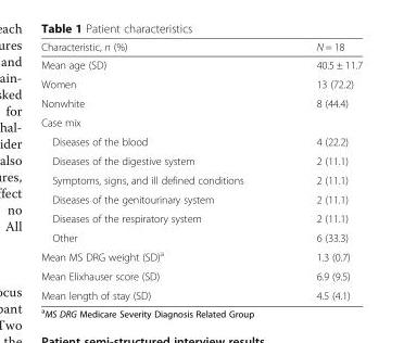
<table><thead><tr><td>Characteristic, n (%)</td><td>N = 18</td></tr></thead><tbody><tr><td>Mean age (SD)</td><td>40.5 ± 11.7</td></tr><tr><td>Women</td><td>13 (72.2)</td></tr><tr><td>Nonwhite</td><td>8 (44.4)</td></tr><tr><td colspan="2">Case mix</td></tr><tr><td>Diseases of the blood</td><td>4 (22.2)</td></tr><tr><td>Diseases of the digestive system</td><td>2 (11.1)</td></tr><tr><td>Symptoms, signs, and ill defined conditions</td><td>2 (11.1)</td></tr><tr><td>Diseases of the genitourinary system</td><td>2 (11.1)</td></tr><tr><td>Diseases of the respiratory system</td><td>2 (11.1)</td></tr><tr><td>Other</td><td>6 (33.3)</td></tr><tr><td>Mean MS DRG weight (SD)<sup>a</sup></td><td>1.3 (0.7)</td></tr><tr><td>Mean Elixhauser score (SD)</td><td>6.9 (9.5)</td></tr><tr><td>Mean length of stay (SD)</td><td>4.5 (4.1)</td></tr></tbody></table>